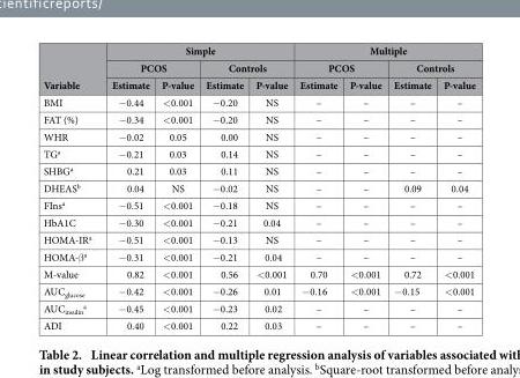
<table><thead><tr><td rowspan="3">Variable</td><td colspan="4">Simple</td><td colspan="4">Multiple</td></tr><tr><td colspan="2">PCOS</td><td colspan="2">Controls</td><td colspan="2">PCOS</td><td colspan="2">Controls</td></tr><tr><td>Estimate</td><td>P-value</td><td>Estimate</td><td>P-value</td><td>Estimate</td><td>P-value</td><td>Estimate</td><td>P-value</td></tr></thead><tbody><tr><td>BMI</td><td>− 0.44</td><td>&lt; 0.001</td><td>− 0.20</td><td>NS</td><td>–</td><td>–</td><td>–</td><td>–</td></tr><tr><td>FAT (%)</td><td>− 0.34</td><td>&lt; 0.001</td><td>− 0.20</td><td>NS</td><td>–</td><td>–</td><td>–</td><td>–</td></tr><tr><td>WHR</td><td>− 0.02</td><td>0.05</td><td>0.00</td><td>NS</td><td>–</td><td>–</td><td>–</td><td>–</td></tr><tr><td>TG<sup>a</sup></td><td>− 0.21</td><td>0.03</td><td>0.14</td><td>NS</td><td>–</td><td>–</td><td>–</td><td>–</td></tr><tr><td>SHBG<sup>a</sup></td><td>0.21</td><td>0.03</td><td>0.11</td><td>NS</td><td>–</td><td>–</td><td>–</td><td>–</td></tr><tr><td>DHEAS<sup>b</sup></td><td>0.04</td><td>NS</td><td>− 0.02</td><td>NS</td><td>–</td><td>–</td><td>0.09</td><td>0.04</td></tr><tr><td>FIns<sup>a</sup></td><td>− 0.51</td><td>&lt; 0.001</td><td>− 0.18</td><td>NS</td><td>–</td><td>–</td><td>–</td><td>–</td></tr><tr><td>HbA1C</td><td>− 0.30</td><td>&lt; 0.001</td><td>− 0.21</td><td>0.04</td><td>–</td><td>–</td><td>–</td><td>–</td></tr><tr><td>HOMA-IR<sup>a</sup></td><td>− 0.51</td><td>&lt; 0.001</td><td>− 0.13</td><td>NS</td><td>–</td><td>–</td><td>–</td><td>–</td></tr><tr><td>HOMA-β <sup>a</sup></td><td>− 0.31</td><td>&lt; 0.001</td><td>− 0.21</td><td>0.04</td><td>–</td><td>–</td><td>–</td><td>–</td></tr><tr><td>M-value</td><td>0.82</td><td>&lt; 0.001</td><td>0.56</td><td>&lt; 0.001</td><td>0.70</td><td>&lt; 0.001</td><td>0.72</td><td>&lt; 0.001</td></tr><tr><td>AUC<sub>glucose</sub></td><td>− 0.42</td><td>&lt; 0.001</td><td>− 0.26</td><td>0.01</td><td>− 0.16</td><td>&lt; 0.001</td><td>− 0.15</td><td>&lt; 0.001</td></tr><tr><td>AUC<sub>insulin</sub> <sup>a</sup></td><td>− 0.45</td><td>&lt; 0.001</td><td>− 0.23</td><td>0.02</td><td>–</td><td>–</td><td>–</td><td>–</td></tr><tr><td>ADI</td><td>0.40</td><td>&lt; 0.001</td><td>0.22</td><td>0.03</td><td>–</td><td>–</td><td>–</td><td>–</td></tr></tbody></table>